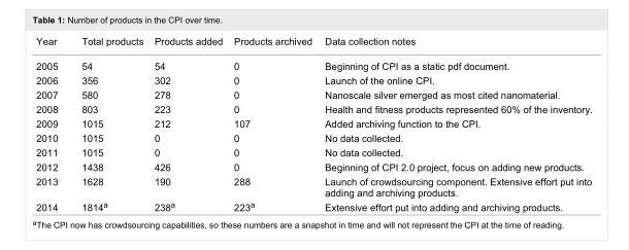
<table><tbody><tr><td>Year</td><td>Total products</td><td>Products added</td><td>Products archived</td><td>Data collection notes</td></tr><tr><td>2005</td><td>54</td><td>54</td><td>0</td><td>Beginning of CPI as a static pdf document.</td></tr><tr><td>2006</td><td>356</td><td>302</td><td>0</td><td>Launch of the online CPI.</td></tr><tr><td>2007</td><td>580</td><td>278</td><td>0</td><td>Nanoscale silver emerged as most cited nanomaterial.</td></tr><tr><td>2008</td><td>803</td><td>223</td><td>0</td><td>Health and fitness products represented 60% of the inventory.</td></tr><tr><td>2009</td><td>1015</td><td>212</td><td>107</td><td>Added archiving function to the CPI.</td></tr><tr><td>2010</td><td>1015</td><td>0</td><td>0</td><td>No data collected.</td></tr><tr><td>2011</td><td>1015</td><td>0</td><td>0</td><td>No data collected.</td></tr><tr><td>2012</td><td>1438</td><td>426</td><td>0</td><td>Beginning of CPI 2.0 project, focus on adding new products.</td></tr><tr><td>2013</td><td>1628</td><td>190</td><td>288</td><td>Launch of crowdsourcing component. Extensive effort put into adding and archiving products.</td></tr><tr><td>2014</td><td>1814<sup>a</sup></td><td>238<sup>a</sup></td><td>223<sup>a</sup></td><td>Extensive effort put into adding and archiving products.</td></tr></tbody></table>